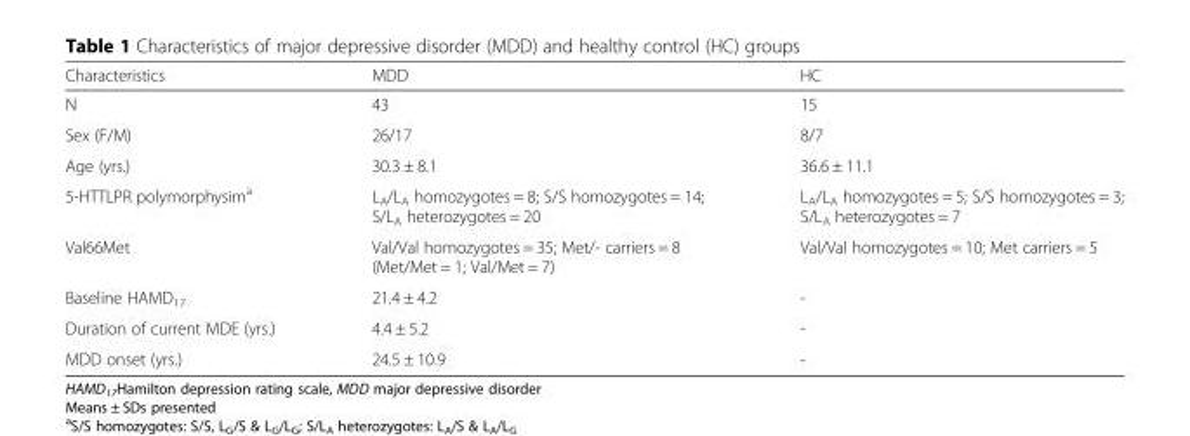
<table><thead><tr><td>Characteristics</td><td>MDD</td><td>HC</td></tr></thead><tbody><tr><td>N</td><td>43</td><td>15</td></tr><tr><td>Sex (F/M)</td><td>26/17</td><td>8/7</td></tr><tr><td>Age (yrs.)</td><td>30.3 ± 8.1</td><td>36.6 ± 11.1</td></tr><tr><td>5-HTTLPR polymorphysim<sup>a</sup></td><td>L<sub>A</sub>/L<sub>A</sub> homozygotes = 8; S/S homozygotes = 14; S/L<sub>A</sub> heterozygotes = 20</td><td>L<sub>A</sub>/L<sub>A</sub> homozygotes = 5; S/S homozygotes = 3; S/L<sub>A</sub> heterozygotes = 7</td></tr><tr><td>Val66Met</td><td>Val/Val homozygotes = 35; Met/- carriers = 8 (Met/Met = 1; Val/Met = 7)</td><td>Val/Val homozygotes = 10; Met carriers = 5</td></tr><tr><td>Baseline HAMD<sub>17</sub></td><td>21.4 ± 4.2</td><td>-</td></tr><tr><td>Duration of current MDE (yrs.)</td><td>4.4 ± 5.2</td><td>-</td></tr><tr><td>MDD onset (yrs.)</td><td>24.5 ± 10.9</td><td>-</td></tr></tbody></table>